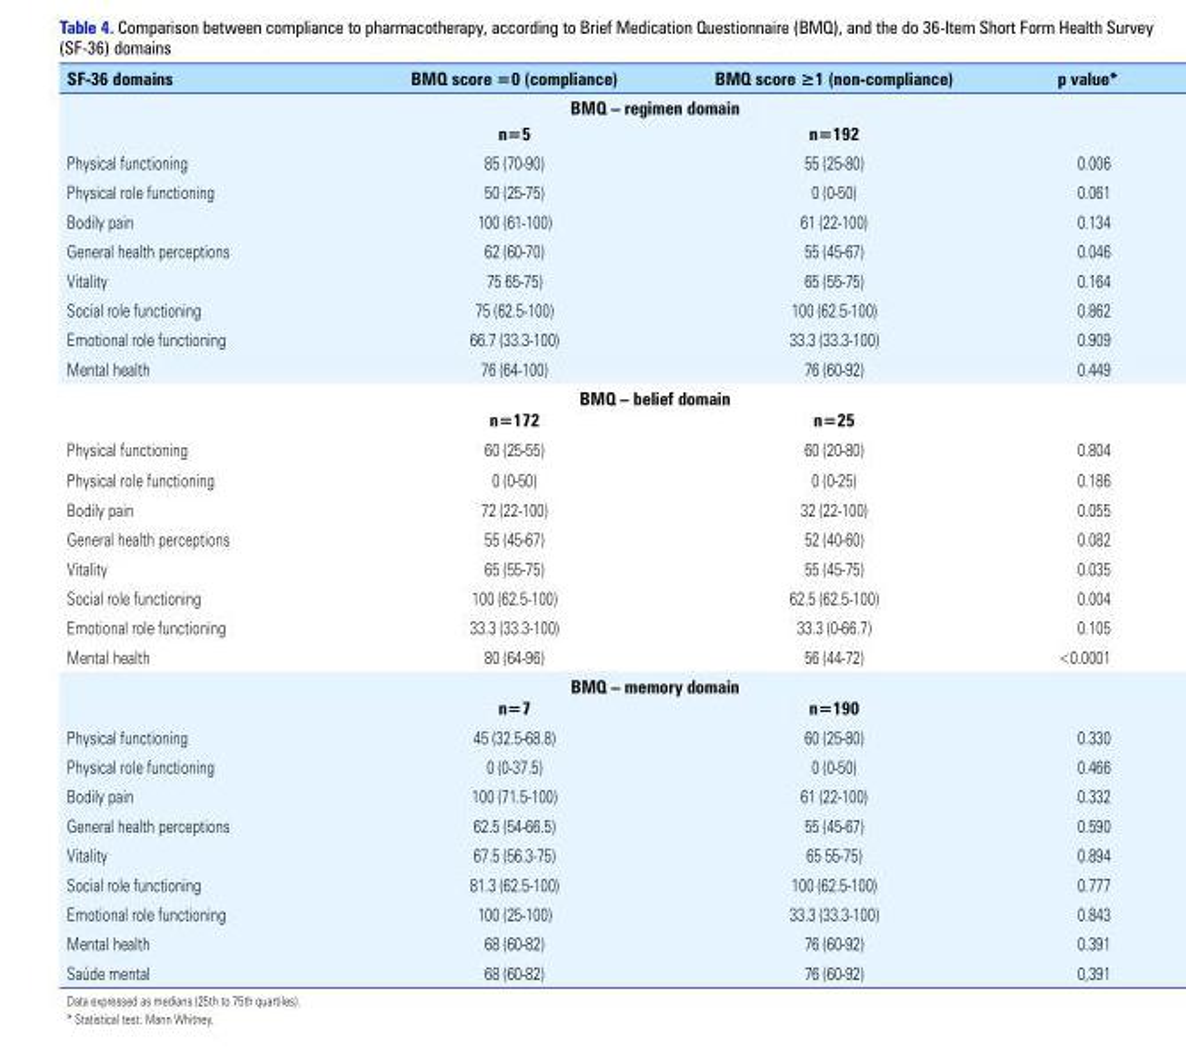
<table><thead><tr><td>SF-36 domains</td><td>BMQ score =0 (compliance)</td><td>BMQ score ≥1 (non-compliance)</td><td>p value*</td></tr></thead><tbody><tr><td rowspan="2"></td><td colspan="2">BMQ – regimen domain</td><td rowspan="2"></td></tr><tr><td>n=5</td><td>n=192</td></tr><tr><td>Physical functioning</td><td>85 (70-90)</td><td>55 (25-80)</td><td>0.006</td></tr><tr><td>Physical role functioning</td><td>50 (25-75)</td><td>0 (0-50)</td><td>0.061</td></tr><tr><td>Bodily pain</td><td>100 (61-100)</td><td>61 (22-100)</td><td>0.134</td></tr><tr><td>General health perceptions</td><td>62 (60-70)</td><td>55 (45-67)</td><td>0.046</td></tr><tr><td>Vitality</td><td>75 65-75)</td><td>65 (55-75)</td><td>0.164</td></tr><tr><td>Social role functioning</td><td>75 (62.5-100)</td><td>100 (62.5-100)</td><td>0.862</td></tr><tr><td>Emotional role functioning</td><td>66.7 (33.3-100)</td><td>33.3 (33.3-100)</td><td>0.909</td></tr><tr><td rowspan="3">Mental health</td><td>76 (64-100)</td><td>76 (60-92)</td><td>0.449</td></tr><tr><td colspan="2">BMQ – belief domain</td><td rowspan="2"></td></tr><tr><td>n=172</td><td>n=25</td></tr><tr><td>Physical functioning</td><td>60 (25-55)</td><td>60 (20-80)</td><td>0.804</td></tr><tr><td>Physical role functioning</td><td>0 (0-50)</td><td>0 (0-25)</td><td>0.186</td></tr><tr><td>Bodily pain</td><td>72 (22-100)</td><td>32 (22-100)</td><td>0.055</td></tr><tr><td>General health perceptions</td><td>55 (45-67)</td><td>52 (40-60)</td><td>0.082</td></tr><tr><td>Vitality</td><td>65 (55-75)</td><td>55 (45-75)</td><td>0.035</td></tr><tr><td>Social role functioning</td><td>100 (62.5-100)</td><td>62.5 (62.5-100)</td><td>0.004</td></tr><tr><td>Emotional role functioning</td><td>33.3 (33.3-100)</td><td>33.3 (0-66.7)</td><td>0.105</td></tr><tr><td rowspan="3">Mental health</td><td>80 (64-96)</td><td>56 (44-72)</td><td>&lt;0.0001</td></tr><tr><td colspan="2">BMQ – memory domain</td><td rowspan="2"></td></tr><tr><td>n=7</td><td>n=190</td></tr><tr><td>Physical functioning</td><td>45 (32.5-68.8)</td><td>60 (25-80)</td><td>0.330</td></tr><tr><td>Physical role functioning</td><td>0 (0-37.5)</td><td>0 (0-50)</td><td>0.466</td></tr><tr><td>Bodily pain</td><td>100 (71.5-100)</td><td>61 (22-100)</td><td>0.332</td></tr><tr><td>General health perceptions</td><td>62.5 (54-66.5)</td><td>55 (45-67)</td><td>0.590</td></tr><tr><td>Vitality</td><td>67.5 (56.3-75)</td><td>65 55-75)</td><td>0.894</td></tr><tr><td>Social role functioning</td><td>81.3 (62.5-100)</td><td>100 (62.5-100)</td><td>0.777</td></tr><tr><td>Emotional role functioning</td><td>100 (25-100)</td><td>33.3 (33.3-100)</td><td>0.843</td></tr><tr><td>Mental health</td><td>68 (60-82)</td><td>76 (60-92)</td><td>0.391</td></tr><tr><td>Saúde mental</td><td>68 (60-82)</td><td>76 (60-92)</td><td>0,391</td></tr></tbody></table>